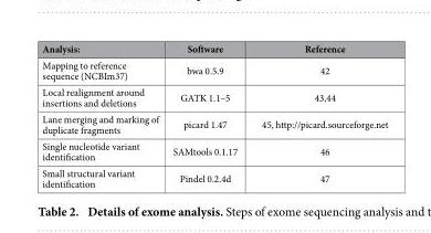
<table><thead><tr><td>Analysis:</td><td>Software</td><td>Reference</td></tr></thead><tbody><tr><td>Mapping to reference sequence (NCBIm37)</td><td>bwa 0.5.9</td><td>42</td></tr><tr><td>Local realignment around insertions and deletions</td><td>GATK 1.1–5</td><td>43,44</td></tr><tr><td>Lane merging and marking of duplicate fragments</td><td>picard 1.47</td><td>45, http://picard.sourceforge.net</td></tr><tr><td>Single nucleotide variant identification</td><td>SAMtools 0.1.17</td><td>46</td></tr><tr><td>Small structural variant identification</td><td>Pindel 0.2.4d</td><td>47</td></tr></tbody></table>